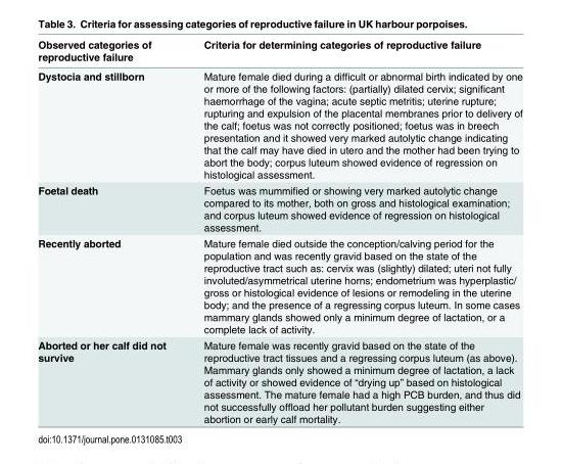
<table><thead><tr><td>Observed categories of reproductive failure</td><td>Criteria for determining categories of reproductive failure</td></tr></thead><tbody><tr><td>Dystocia and stillborn</td><td>Mature female died during a difficult or abnormal birth indicated by one or more of the following factors: (partially) dilated cervix; significant haemorrhage of the vagina; acute septic metritis; uterine rupture; rupturing and expulsion of the placental membranes prior to delivery of the calf; foetus was not correctly positioned; foetus was in breech presentation and it showed very marked autolytic change indicating that the calf may have died in utero and the mother had been trying to abort the body; corpus luteum showed evidence of regression on histological assessment.</td></tr><tr><td>Foetal death</td><td>Foetus was mummified or showing very marked autolytic change compared to its mother, both on gross and histological examination; and corpus luteum showed evidence of regression on histological assessment.</td></tr><tr><td>Recently aborted</td><td>Mature female died outside the conception/calving period for the population and was recently gravid based on the state of the reproductive tract such as: cervix was (slightly) dilated; uteri not fully involuted/asymmetrical uterine horns; endometrium was hyperplastic/ gross or histological evidence of lesions or remodeling in the uterine body; and the presence of a regressing corpus luteum. In some cases mammary glands showed only a minimum degree of lactation, or a complete lack of activity.</td></tr><tr><td>Aborted or her calf did not survive</td><td>Mature female was recently gravid based on the state of the reproductive tract tissues and a regressing corpus luteum (as above). Mammary glands only showed a minimum degree of lactation, a lack of activity or showed evidence of “drying up” based on histological assessment. The mature female had a high PCB burden, and thus did not successfully offload her pollutant burden suggesting either abortion or early calf mortality.</td></tr></tbody></table>